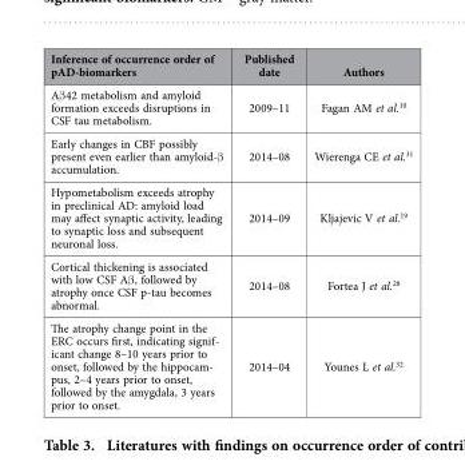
<table><thead><tr><td>Inference of occurrence order of pAD-biomarkers</td><td>Published date</td><td>Authors</td></tr></thead><tbody><tr><td>Aβ 42 metabolism and amyloid formation exceeds disruptions in CSF tau metabolism.</td><td>2009–11</td><td>Fagan AM et al.<sup>10</sup></td></tr><tr><td>Early changes in CBF possibly present even earlier than amyloid-β accumulation.</td><td>2014–08</td><td>Wierenga CE et al.<sup>31</sup></td></tr><tr><td>Hypometabolism exceeds atrophy in preclinical AD: amyloid load may affect synaptic activity, leading to synaptic loss and subsequent neuronal loss.</td><td>2014–09</td><td>Kljajevic V et al.<sup>19</sup></td></tr><tr><td>Cortical thickening is associated with low CSF Aβ , followed by atrophy once CSF p-tau becomes abnormal.</td><td>2014–08</td><td>Fortea J et al.<sup>28</sup></td></tr><tr><td>The atrophy change point in the ERC occurs first, indicating signif- icant change 8–10 years prior to onset, followed by the hippocam- pus, 2–4 years prior to onset, followed by the amygdala, 3 years prior to onset.</td><td>2014–04</td><td>Younes L et al.<sup>32</sup></td></tr></tbody></table>